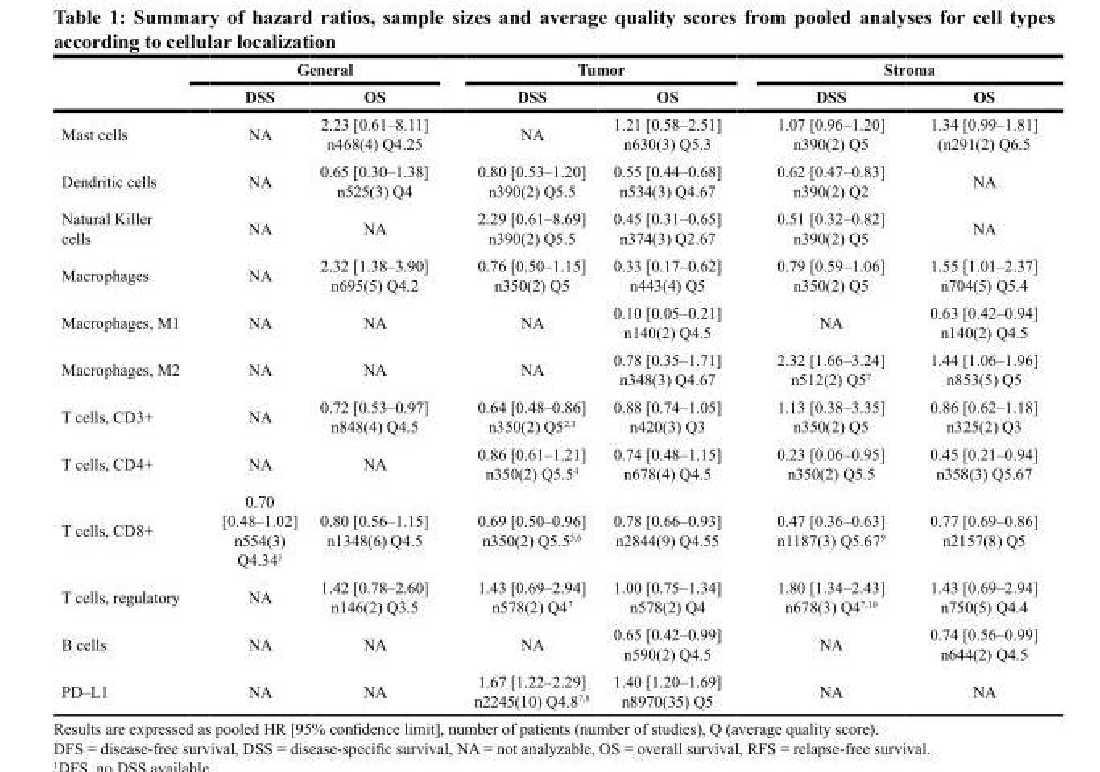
<table><thead><tr><td rowspan="2"></td><td colspan="2">General</td><td colspan="2">Tumor</td><td colspan="2">Stroma</td></tr><tr><td>DSS</td><td>OS</td><td>DSS</td><td>OS</td><td>DSS</td><td>OS</td></tr></thead><tbody><tr><td>Mast cells</td><td>NA</td><td>2.23 [0.61–8.11] n468(4) Q4.25</td><td>NA</td><td>1.21 [0.58–2.51] n630(3) Q5.3</td><td>1.07 [0.96–1.20] n390(2) Q5</td><td>1.34 [0.99–1.81] (n291(2) Q6.5</td></tr><tr><td>Dendritic cells</td><td>NA</td><td>0.65 [0.30–1.38] n525(3) Q4</td><td>0.80 [0.53–1.20] n390(2) Q5.5</td><td>0.55 [0.44–0.68] n534(3) Q4.67</td><td>0.62 [0.47–0.83] n390(2) Q2</td><td>NA</td></tr><tr><td>Natural Killer cells</td><td>NA</td><td>NA</td><td>2.29 [0.61–8.69] n390(2) Q5.5</td><td>0.45 [0.31–0.65] n374(3) Q2.67</td><td>0.51 [0.32–0.82] n390(2) Q5</td><td>NA</td></tr><tr><td>Macrophages</td><td>NA</td><td>2.32 [1.38–3.90] n695(5) Q4.2</td><td>0.76 [0.50–1.15] n350(2) Q5</td><td>0.33 [0.17–0.62] n443(4) Q5</td><td>0.79 [0.59–1.06] n350(2) Q5</td><td>1.55 [1.01–2.37] n704(5) Q5.4</td></tr><tr><td>Macrophages, M1</td><td>NA</td><td>NA</td><td>NA</td><td>0.10 [0.05–0.21] n140(2) Q4.5</td><td>NA</td><td>0.63 [0.42–0.94] n140(2) Q4.5</td></tr><tr><td>Macrophages, M2</td><td>NA</td><td>NA</td><td>NA</td><td>0.78 [0.35–1.71] n348(3) Q4.67</td><td>2.32 [1.66–3.24] n512(2) Q5<sup>7</sup></td><td>1.44 [1.06–1.96] n853(5) Q5</td></tr><tr><td>T cells, CD3+</td><td>NA</td><td>0.72 [0.53–0.97] n848(4) Q4.5</td><td>0.64 [0.48–0.86] n350(2) Q5<sup>2,3</sup></td><td>0.88 [0.74–1.05] n420(3) Q3</td><td>1.13 [0.38–3.35] n350(2) Q5</td><td>0.86 [0.62–1.18] n325(2) Q3</td></tr><tr><td>T cells, CD4+</td><td>NA</td><td>NA</td><td>0.86 [0.61–1.21] n350(2) Q5.5<sup>4</sup></td><td>0.74 [0.48–1.15] n678(4) Q4.5</td><td>0.23 [0.06–0.95] n350(2) Q5.5</td><td>0.45 [0.21–0.94] n358(3) Q5.67</td></tr><tr><td>T cells, CD8+</td><td>0.70 [0.48–1.02] n554(3) Q4.34<sup>1</sup></td><td>0.80 [0.56–1.15] n1348(6) Q4.5</td><td>0.69 [0.50–0.96] n350(2) Q5.5<sup>5,6</sup></td><td>0.78 [0.66–0.93] n2844(9) Q4.55</td><td>0.47 [0.36–0.63] n1187(3) Q5.67<sup>9</sup></td><td>0.77 [0.69–0.86] n2157(8) Q5</td></tr><tr><td>T cells, regulatory</td><td>NA</td><td>1.42 [0.78–2.60] n146(2) Q3.5</td><td>1.43 [0.69–2.94] n578(2) Q4<sup>7</sup></td><td>1.00 [0.75–1.34] n578(2) Q4</td><td>1.80 [1.34–2.43] n678(3) Q4<sup>7,10</sup></td><td>1.43 [0.69–2.94] n750(5) Q4.4</td></tr><tr><td>B cells</td><td>NA</td><td>NA</td><td>NA</td><td>0.65 [0.42–0.99] n590(2) Q4.5</td><td>NA</td><td>0.74 [0.56–0.99] n644(2) Q4.5</td></tr><tr><td>PD–L1</td><td>NA</td><td>NA</td><td>1.67 [1.22–2.29] n2245(10) Q4.8<sup>7,8</sup></td><td>1.40 [1.20–1.69] n8970(35) Q5</td><td>NA</td><td>NA</td></tr></tbody></table>